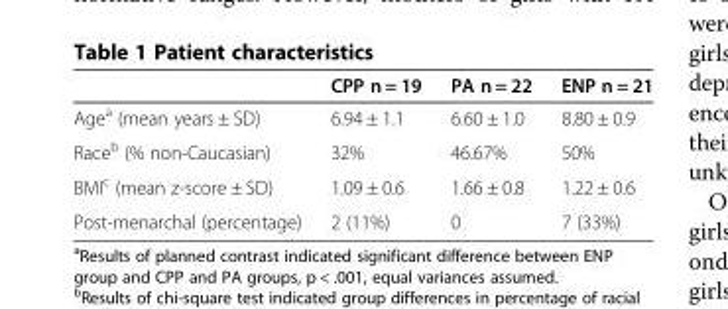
<table><thead><tr><td></td><td>CPP n = 19</td><td>PA n = 22</td><td>ENP n = 21</td></tr></thead><tbody><tr><td>Age<sup>a</sup> (mean years ± SD)</td><td>6.94 ± 1.1</td><td>6.60 ± 1.0</td><td>8.80 ± 0.9</td></tr><tr><td>Race<sup>b</sup> (% non-Caucasian)</td><td>32%</td><td>46.67%</td><td>50%</td></tr><tr><td>BMI<sup>c</sup> (mean z-score ± SD)</td><td>1.09 ± 0.6</td><td>1.66 ± 0.8</td><td>1.22 ± 0.6</td></tr><tr><td>Post-menarchal (percentage)</td><td>2 (11%)</td><td>0</td><td>7 (33%)</td></tr></tbody></table>